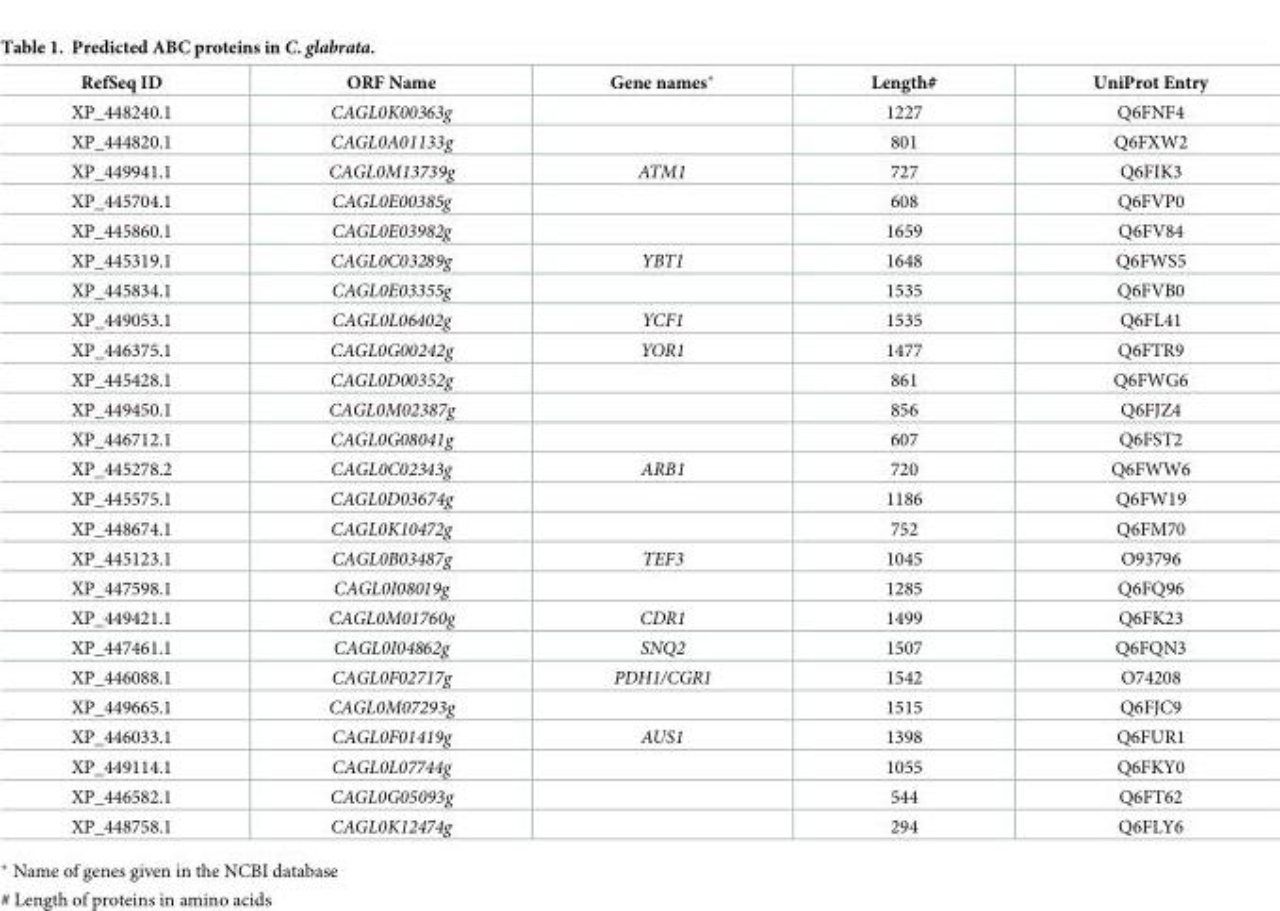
<table><thead><tr><td>RefSeq ID</td><td>ORF Name</td><td>Gene names*</td><td>Length#</td><td>UniProt Entry</td></tr></thead><tbody><tr><td>XP_448240.1</td><td>CAGL0K00363g</td><td></td><td>1227</td><td>Q6FNF4</td></tr><tr><td>XP_444820.1</td><td>CAGL0A01133g</td><td></td><td>801</td><td>Q6FXW2</td></tr><tr><td>XP_449941.1</td><td>CAGL0M13739g</td><td>ATM1</td><td>727</td><td>Q6FIK3</td></tr><tr><td>XP_445704.1</td><td>CAGL0E00385g</td><td></td><td>608</td><td>Q6FVP0</td></tr><tr><td>XP_445860.1</td><td>CAGL0E03982g</td><td></td><td>1659</td><td>Q6FV84</td></tr><tr><td>XP_445319.1</td><td>CAGL0C03289g</td><td>YBT1</td><td>1648</td><td>Q6FWS5</td></tr><tr><td>XP_445834.1</td><td>CAGL0E03355g</td><td></td><td>1535</td><td>Q6FVB0</td></tr><tr><td>XP_449053.1</td><td>CAGL0L06402g</td><td>YCF1</td><td>1535</td><td>Q6FL41</td></tr><tr><td>XP_446375.1</td><td>CAGL0G00242g</td><td>YOR1</td><td>1477</td><td>Q6FTR9</td></tr><tr><td>XP_445428.1</td><td>CAGL0D00352g</td><td></td><td>861</td><td>Q6FWG6</td></tr><tr><td>XP_449450.1</td><td>CAGL0M02387g</td><td></td><td>856</td><td>Q6FJZ4</td></tr><tr><td>XP_446712.1</td><td>CAGL0G08041g</td><td></td><td>607</td><td>Q6FST2</td></tr><tr><td>XP_445278.2</td><td>CAGL0C02343g</td><td>ARB1</td><td>720</td><td>Q6FWW6</td></tr><tr><td>XP_445575.1</td><td>CAGL0D03674g</td><td></td><td>1186</td><td>Q6FW19</td></tr><tr><td>XP_448674.1</td><td>CAGL0K10472g</td><td></td><td>752</td><td>Q6FM70</td></tr><tr><td>XP_445123.1</td><td>CAGL0B03487g</td><td>TEF3</td><td>1045</td><td>O93796</td></tr><tr><td>XP_447598.1</td><td>CAGL0I08019g</td><td></td><td>1285</td><td>Q6FQ96</td></tr><tr><td>XP_449421.1</td><td>CAGL0M01760g</td><td>CDR1</td><td>1499</td><td>Q6FK23</td></tr><tr><td>XP_447461.1</td><td>CAGL0I04862g</td><td>SNQ2</td><td>1507</td><td>Q6FQN3</td></tr><tr><td>XP_446088.1</td><td>CAGL0F02717g</td><td>PDH1/CGR1</td><td>1542</td><td>O74208</td></tr><tr><td>XP_449665.1</td><td>CAGL0M07293g</td><td></td><td>1515</td><td>Q6FJC9</td></tr><tr><td>XP_446033.1</td><td>CAGL0F01419g</td><td>AUS1</td><td>1398</td><td>Q6FUR1</td></tr><tr><td>XP_449114.1</td><td>CAGL0L07744g</td><td></td><td>1055</td><td>Q6FKY0</td></tr><tr><td>XP_446582.1</td><td>CAGL0G05093g</td><td></td><td>544</td><td>Q6FT62</td></tr><tr><td>XP_448758.1</td><td>CAGL0K12474g</td><td></td><td>294</td><td>Q6FLY6</td></tr></tbody></table>